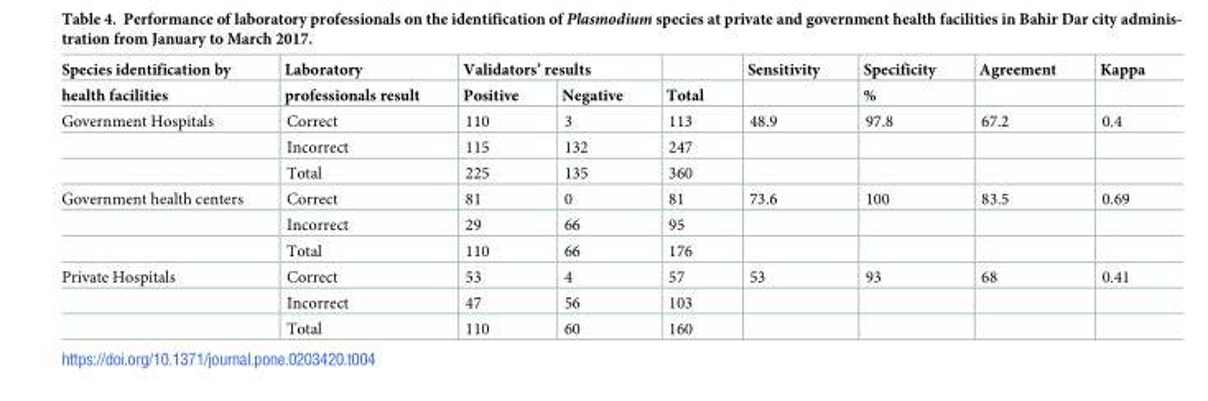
<table><thead><tr><td rowspan="2">Species identification by health facilities</td><td rowspan="2">Laboratory professionals result</td><td colspan="2">Validators’ results</td><td rowspan="2">Total</td><td rowspan="2">Sensitivity</td><td rowspan="2">Specificity %</td><td rowspan="2">Agreement</td><td rowspan="2">Kappa</td></tr><tr><td>Positive</td><td>Negative</td></tr></thead><tbody><tr><td rowspan="3">Government Hospitals</td><td>Correct</td><td>110</td><td>3</td><td>113</td><td>48.9</td><td>97.8</td><td>67.2</td><td>0.4</td></tr><tr><td>Incorrect</td><td>115</td><td>132</td><td>247</td><td></td><td></td><td></td><td></td></tr><tr><td>Total</td><td>225</td><td>135</td><td>360</td><td></td><td></td><td></td><td></td></tr><tr><td rowspan="3">Government health centers</td><td>Correct</td><td>81</td><td>0</td><td>81</td><td>73.6</td><td>100</td><td>83.5</td><td>0.69</td></tr><tr><td>Incorrect</td><td>29</td><td>66</td><td>95</td><td></td><td></td><td></td><td></td></tr><tr><td>Total</td><td>110</td><td>66</td><td>176</td><td></td><td></td><td></td><td></td></tr><tr><td rowspan="3">Private Hospitals</td><td>Correct</td><td>53</td><td>4</td><td>57</td><td>53</td><td>93</td><td>68</td><td>0.41</td></tr><tr><td>Incorrect</td><td>47</td><td>56</td><td>103</td><td></td><td></td><td></td><td></td></tr><tr><td>Total</td><td>110</td><td>60</td><td>160</td><td></td><td></td><td></td><td></td></tr></tbody></table>